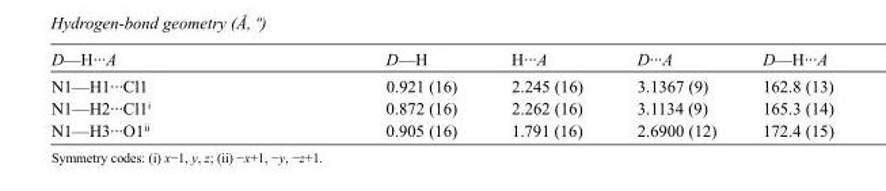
<table><tbody><tr><td>D—H···A</td><td>D—H</td><td>H···A</td><td>D···A</td><td>D—H···A</td></tr><tr><td>N1—H1···Cl1</td><td>0.921 (16)</td><td>2.245 (16)</td><td>3.1367 (9)</td><td>162.8 (13)</td></tr><tr><td>N1—H2···Cl1<sup>i</sup></td><td>0.872 (16)</td><td>2.262 (16)</td><td>3.1134 (9)</td><td>165.3 (14)</td></tr><tr><td>N1—H3···O1<sup>ii</sup></td><td>0.905 (16)</td><td>1.791 (16)</td><td>2.6900 (12)</td><td>172.4 (15)</td></tr></tbody></table>